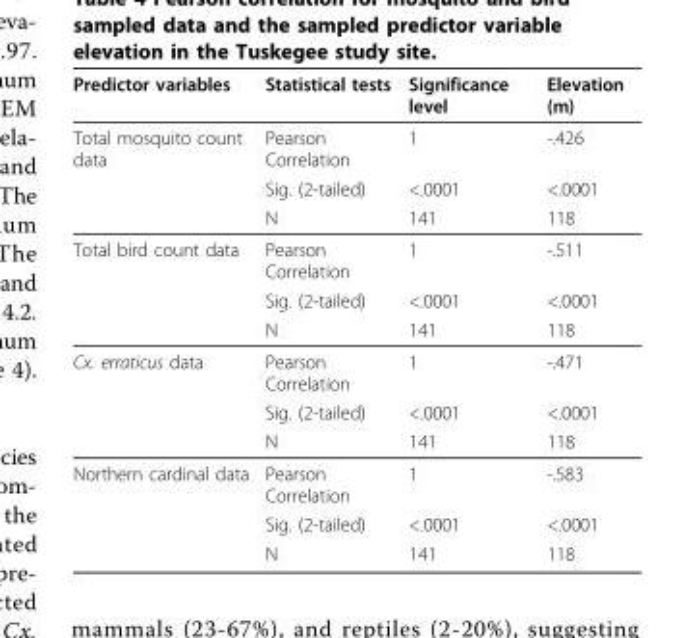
<table><thead><tr><td>Predictor variables</td><td>Statistical tests</td><td>Significance level</td><td>Elevation (m)</td></tr></thead><tbody><tr><td rowspan="3">Total mosquito count data</td><td>Pearson Correlation</td><td>1</td><td>-.426</td></tr><tr><td>Sig. (2-tailed)</td><td>&lt;.0001</td><td>&lt;.0001</td></tr><tr><td>N</td><td>141</td><td>118</td></tr><tr><td rowspan="3">Total bird count data</td><td>Pearson Correlation</td><td>1</td><td>-.511</td></tr><tr><td>Sig. (2-tailed)</td><td>&lt;.0001</td><td>&lt;.0001</td></tr><tr><td>N</td><td>141</td><td>118</td></tr><tr><td rowspan="3">Cx. erraticus data</td><td>Pearson Correlation</td><td>1</td><td>-.471</td></tr><tr><td>Sig. (2-tailed)</td><td>&lt;.0001</td><td>&lt;.0001</td></tr><tr><td>N</td><td>141</td><td>118</td></tr><tr><td rowspan="3">Northern cardinal data</td><td>Pearson Correlation</td><td>1</td><td>-.583</td></tr><tr><td>Sig. (2-tailed)</td><td>&lt;.0001</td><td>&lt;.0001</td></tr><tr><td>N</td><td>141</td><td>118</td></tr></tbody></table>